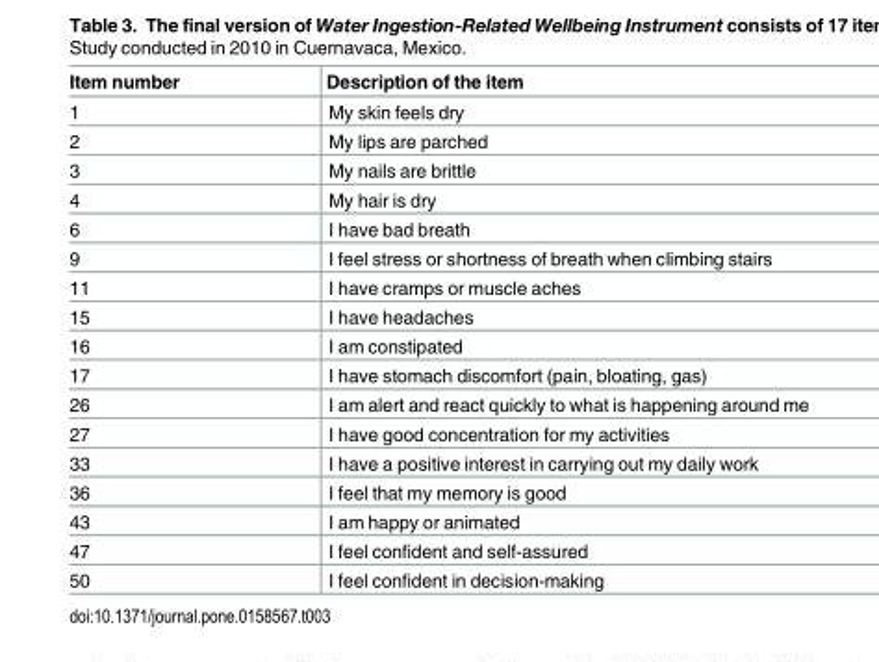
<table><thead><tr><td>Item number</td><td>Description of the item</td></tr></thead><tbody><tr><td>1</td><td>My skin feels dry</td></tr><tr><td>2</td><td>My lips are parched</td></tr><tr><td>3</td><td>My nails are brittle</td></tr><tr><td>4</td><td>My hair is dry</td></tr><tr><td>6</td><td>I have bad breath</td></tr><tr><td>9</td><td>I feel stress or shortness of breath when climbing stairs</td></tr><tr><td>11</td><td>I have cramps or muscle aches</td></tr><tr><td>15</td><td>I have headaches</td></tr><tr><td>16</td><td>I am constipated</td></tr><tr><td>17</td><td>I have stomach discomfort (pain, bloating, gas)</td></tr><tr><td>26</td><td>I am alert and react quickly to what is happening around me</td></tr><tr><td>27</td><td>I have good concentration for my activities</td></tr><tr><td>33</td><td>I have a positive interest in carrying out my daily work</td></tr><tr><td>36</td><td>I feel that my memory is good</td></tr><tr><td>43</td><td>I am happy or animated</td></tr><tr><td>47</td><td>I feel confident and self-assured</td></tr><tr><td>50</td><td>I feel confident in decision-making</td></tr></tbody></table>